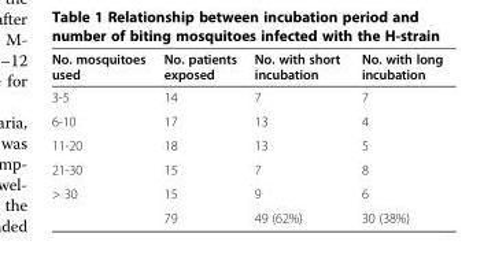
<table><thead><tr><td>No. mosquitoes used</td><td>No. patients exposed</td><td>No. with short incubation</td><td>No. with long incubation</td></tr></thead><tbody><tr><td>3-5</td><td>14</td><td>7</td><td>7</td></tr><tr><td>6-10</td><td>17</td><td>13</td><td>4</td></tr><tr><td>11-20</td><td>18</td><td>13</td><td>5</td></tr><tr><td>21-30</td><td>15</td><td>7</td><td>8</td></tr><tr><td rowspan="2">&gt; 30</td><td>15</td><td>9</td><td>6</td></tr><tr><td>79</td><td>49 (62%)</td><td>30 (38%)</td></tr></tbody></table>